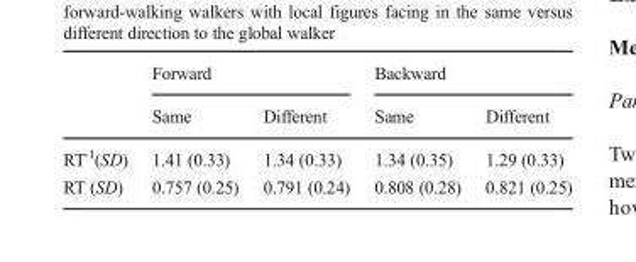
<table><thead><tr><td rowspan="2"></td><td colspan="2">Forward</td><td colspan="2">Backward</td></tr><tr><td>Same</td><td>Different</td><td>Same</td><td>Different</td></tr></thead><tbody><tr><td>RT<sup>-1</sup>(SD)</td><td>1.41 (0.33)</td><td>1.34 (0.33)</td><td>1.34 (0.35)</td><td>1.29 (0.33)</td></tr><tr><td>RT (SD)</td><td>0.757 (0.25)</td><td>0.791 (0.24)</td><td>0.808 (0.28)</td><td>0.821 (0.25)</td></tr></tbody></table>